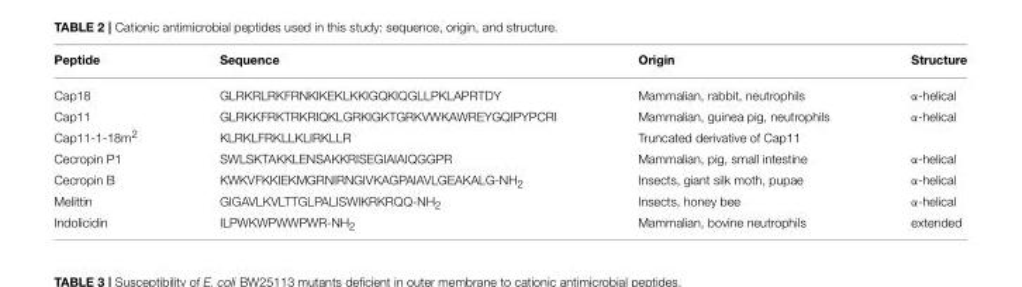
<table><thead><tr><td>Peptide</td><td>Sequence</td><td>Origin</td><td>Structure</td></tr></thead><tbody><tr><td>Cap18</td><td>GLRKRLRKFRNKIKEKLKKIGQKIQGLLPKLAPRTDY</td><td>Mammalian, rabbit, neutrophils</td><td>α-helical</td></tr><tr><td>Cap11</td><td>GLRKKFRKTRKRIQKLGRKIGKTGRKVWKAWREYGQIPYPCRI</td><td>Mammalian, guinea pig, neutrophils</td><td>α-helical</td></tr><tr><td>Cap11-1-18m<sup>2</sup></td><td>KLRKLFRKLLKLIRKLLR</td><td>Truncated derivative of Cap11</td><td></td></tr><tr><td>Cecropin P1</td><td>SWLSKTAKKLENSAKKRISEGIAIAIQGGPR</td><td>Mammalian, pig, small intestine</td><td>α-helical</td></tr><tr><td>Cecropin B</td><td>KWKVFKKIEKMGRNIRNGIVKAGPAIAVLGEAKALG-NH<sub>2</sub></td><td>Insects, giant silk moth, pupae</td><td>α-helical</td></tr><tr><td>Melittin</td><td>GIGAVLKVLTTGLPALISWIKRKRQQ-NH<sub>2</sub></td><td>Insects, honey bee</td><td>α-helical</td></tr><tr><td>Indolicidin</td><td>ILPWKWPWWPWR-NH<sub>2</sub></td><td>Mammalian, bovine neutrophils</td><td>extended</td></tr></tbody></table>